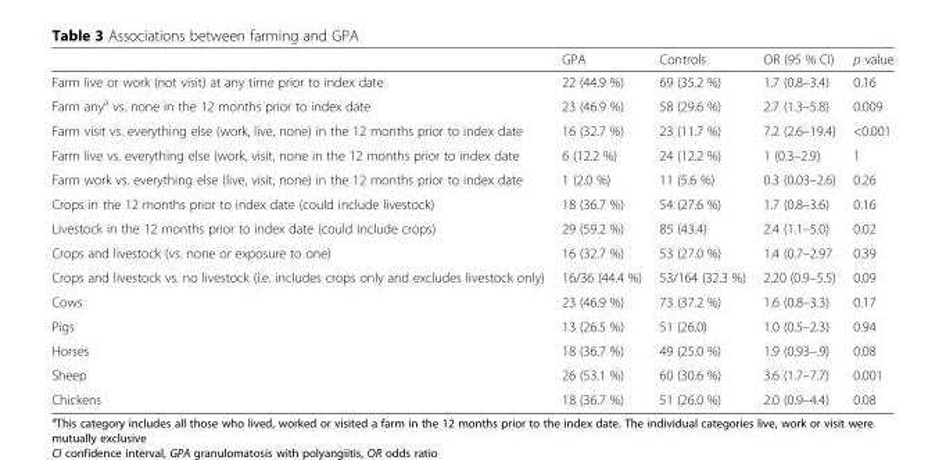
<table><thead><tr><td></td><td>GPA</td><td>Controls</td><td>OR (95 % CI)</td><td>p value</td></tr></thead><tbody><tr><td>Farm live or work (not visit) at any time prior to index date</td><td>22 (44.9 %)</td><td>69 (35.2 %)</td><td>1.7 (0.8–3.4)</td><td>0.16</td></tr><tr><td>Farm any<sup>a</sup> vs. none in the 12 months prior to index date</td><td>23 (46.9 %)</td><td>58 (29.6 %)</td><td>2.7 (1.3–5.8)</td><td>0.009</td></tr><tr><td>Farm visit vs. everything else (work, live, none) in the 12 months prior to index date</td><td>16 (32.7 %)</td><td>23 (11.7 %)</td><td>7.2 (2.6–19.4)</td><td>&lt;0.001</td></tr><tr><td>Farm live vs. everything else (work, visit, none in the 12 months prior to index date</td><td>6 (12.2 %)</td><td>24 (12.2 %)</td><td>1 (0.3–2.9)</td><td>1</td></tr><tr><td>Farm work vs. everything else (live, visit, none) in the 12 months prior to index date</td><td>1 (2.0 %)</td><td>11 (5.6 %)</td><td>0.3 (0.03–2.6)</td><td>0.26</td></tr><tr><td>Crops in the 12 months prior to index date (could include livestock)</td><td>18 (36.7 %)</td><td>54 (27.6 %)</td><td>1.7 (0.8–3.6)</td><td>0.16</td></tr><tr><td>Livestock in the 12 months prior to index date (could include crops)</td><td>29 (59.2 %)</td><td>85 (43.4)</td><td>2.4 (1.1–5.0)</td><td>0.02</td></tr><tr><td>Crops and livestock (vs. none or exposure to one)</td><td>16 (32.7 %)</td><td>53 (27.0 %)</td><td>1.4 (0.7–2.97</td><td>0.39</td></tr><tr><td>Crops and livestock vs. no livestock (i.e. includes crops only and excludes livestock only)</td><td>16/36 (44.4 %)</td><td>53/164 (32.3 %)</td><td>2.20 (0.9–5.5)</td><td>0.09</td></tr><tr><td>Cows</td><td>23 (46.9 %)</td><td>73 (37.2 %)</td><td>1.6 (0.8–3.3)</td><td>0.17</td></tr><tr><td>Pigs</td><td>13 (26.5 %)</td><td>51 (26.0)</td><td>1.0 (0.5–2.3)</td><td>0.94</td></tr><tr><td>Horses</td><td>18 (36.7 %)</td><td>49 (25.0 %)</td><td>1.9 (0.93–.9)</td><td>0.08</td></tr><tr><td>Sheep</td><td>26 (53.1 %)</td><td>60 (30.6 %)</td><td>3.6 (1.7–7.7)</td><td>0.001</td></tr><tr><td>Chickens</td><td>18 (36.7 %)</td><td>51 (26.0 %)</td><td>2.0 (0.9–4.4)</td><td>0.08</td></tr></tbody></table>